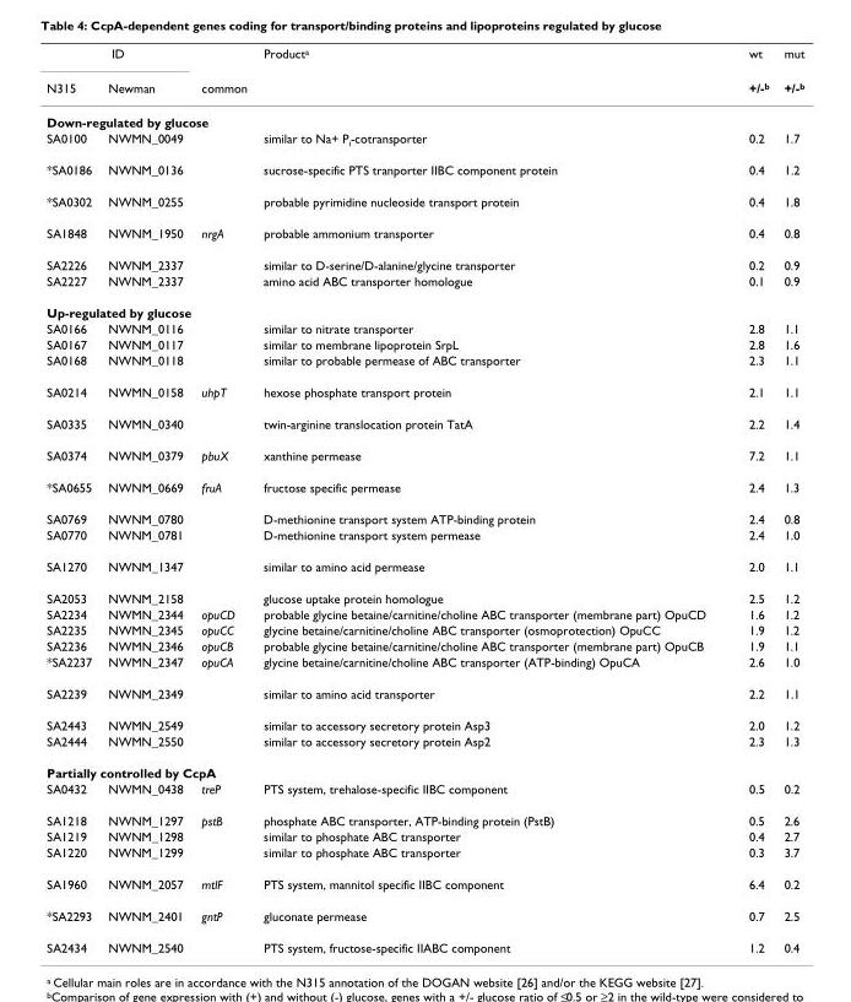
<table><thead><tr><td colspan="2">ID</td><td rowspan="2">common</td><td rowspan="2">Product<sup>a</sup></td><td rowspan="2">wt +/-<sup>b</sup></td><td rowspan="2">mut +/-<sup>b</sup></td></tr><tr><td>N315</td><td>Newman</td></tr></thead><tbody><tr><td colspan="6">Down-regulated by glucose</td></tr><tr><td>SA0100</td><td>NWMN_0049</td><td></td><td>similar to Na+ P<sub>i</sub>-cotransporter</td><td>0.2</td><td>1.7</td></tr><tr><td>*SA0186</td><td>NWNM_0136</td><td></td><td>sucrose-specific PTS tranporter IIBC component protein</td><td>0.4</td><td>1.2</td></tr><tr><td>*SA0302</td><td>NWNM_0255</td><td></td><td>probable pyrimidine nucleoside transport protein</td><td>0.4</td><td>1.8</td></tr><tr><td>SA1848</td><td>NWNM_1950</td><td>nrgA</td><td>probable ammonium transporter</td><td>0.4</td><td>0.8</td></tr><tr><td>SA2226</td><td>NWNM_2337</td><td></td><td>similar to D-serine/D-alanine/glycine transporter</td><td>0.2</td><td>0.9</td></tr><tr><td>SA2227</td><td>NWNM_2337</td><td></td><td>amino acid ABC transporter homologue</td><td>0.1</td><td>0.9</td></tr><tr><td colspan="6">Up-regulated by glucose</td></tr><tr><td>SA0166</td><td>NWNM_0116</td><td></td><td>similar to nitrate transporter</td><td>2.8</td><td>1.1</td></tr><tr><td>SA0167</td><td>NWNM_0117</td><td></td><td>similar to membrane lipoprotein SrpL</td><td>2.8</td><td>1.6</td></tr><tr><td>SA0168</td><td>NWNM_0118</td><td></td><td>similar to probable permease of ABC transporter</td><td>2.3</td><td>1.1</td></tr><tr><td>SA0214</td><td>NWMN_0158</td><td>uhpT</td><td>hexose phosphate transport protein</td><td>2.1</td><td>1.1</td></tr><tr><td>SA0335</td><td>NWMN_0340</td><td></td><td>twin-arginine translocation protein TatA</td><td>2.2</td><td>1.4</td></tr><tr><td>SA0374</td><td>NWNM_0379</td><td>pbuX</td><td>xanthine permease</td><td>7.2</td><td>1.1</td></tr><tr><td>*SA0655</td><td>NWNM_0669</td><td>fruA</td><td>fructose specific permease</td><td>2.4</td><td>1.3</td></tr><tr><td>SA0769</td><td>NWNM_0780</td><td></td><td>D-methionine transport system ATP-binding protein</td><td>2.4</td><td>0.8</td></tr><tr><td>SA0770</td><td>NWNM_0781</td><td></td><td>D-methionine transport system permease</td><td>2.4</td><td>1.0</td></tr><tr><td>SA1270</td><td>NWNM_1347</td><td></td><td>similar to amino acid permease</td><td>2.0</td><td>1.1</td></tr><tr><td>SA2053</td><td>NWNM_2158</td><td></td><td>glucose uptake protein homologue</td><td>2.5</td><td>1.2</td></tr><tr><td>SA2234</td><td>NWMN_2344</td><td>opuCD</td><td>probable glycine betaine/carnitine/choline ABC transporter (membrane part) OpuCD</td><td>1.6</td><td>1.2</td></tr><tr><td>SA2235</td><td>NWMN_2345</td><td>opuCC</td><td>glycine betaine/carnitine/choline ABC transporter (osmoprotection) OpuCC</td><td>1.9</td><td>1.2</td></tr><tr><td>SA2236</td><td>NWMN_2346</td><td>opuCB</td><td>probable glycine betaine/carnitine/choline ABC transporter (membrane part) OpuCB</td><td>1.9</td><td>1.1</td></tr><tr><td>*SA2237</td><td>NWMN_2347</td><td>opuCA</td><td>glycine betaine/carnitine/choline ABC transporter (ATP-binding) OpuCA</td><td>2.6</td><td>1.0</td></tr><tr><td>SA2239</td><td>NWNM_2349</td><td></td><td>similar to amino acid transporter</td><td>2.2</td><td>1.1</td></tr><tr><td>SA2443</td><td>NWMN_2549</td><td></td><td>similar to accessory secretory protein Asp3</td><td>2.0</td><td>1.2</td></tr><tr><td>SA2444</td><td>NWMN_2550</td><td></td><td>similar to accessory secretory protein Asp2</td><td>2.3</td><td>1.3</td></tr><tr><td colspan="6">Partially controlled by CcpA</td></tr><tr><td>SA0432</td><td>NWMN_0438</td><td>treP</td><td>PTS system, trehalose-specific IIBC component</td><td>0.5</td><td>0.2</td></tr><tr><td>SA1218</td><td>NWNM_1297</td><td>pstB</td><td>phosphate ABC transporter, ATP-binding protein (PstB)</td><td>0.5</td><td>2.6</td></tr><tr><td>SA1219</td><td>NWNM_1298</td><td></td><td>similar to phosphate ABC transporter</td><td>0.4</td><td>2.7</td></tr><tr><td>SA1220</td><td>NWNM_1299</td><td></td><td>similar to phosphate ABC transporter</td><td>0.3</td><td>3.7</td></tr><tr><td>SA1960</td><td>NWNM_2057</td><td>mtlF</td><td>PTS system, mannitol specific IIBC component</td><td>6.4</td><td>0.2</td></tr><tr><td>*SA2293</td><td>NWNM_2401</td><td>gntP</td><td>gluconate permease</td><td>0.7</td><td>2.5</td></tr><tr><td>SA2434</td><td>NWNM_2540</td><td></td><td>PTS system, fructose-specific IIABC component</td><td>1.2</td><td>0.4</td></tr></tbody></table>